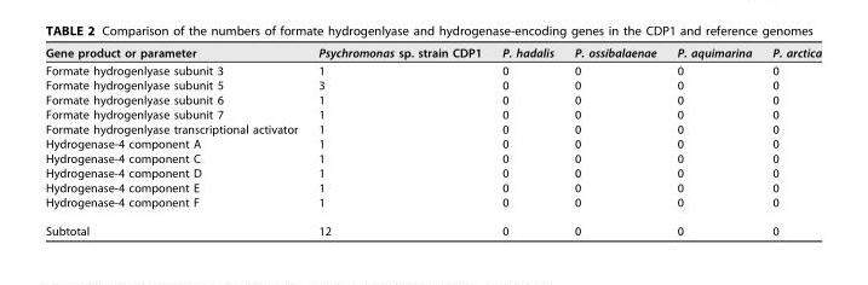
<table><thead><tr><td>Gene product or parameter</td><td>Psychromonas sp. strain CDP1</td><td>P. hadalis</td><td>P. ossibalaenae</td><td>P. aquimarina</td><td>P. arctica</td></tr></thead><tbody><tr><td>Formate hydrogenlyase subunit 3</td><td>1</td><td>0</td><td>0</td><td>0</td><td>0</td></tr><tr><td>Formate hydrogenlyase subunit 5</td><td>3</td><td>0</td><td>0</td><td>0</td><td>0</td></tr><tr><td>Formate hydrogenlyase subunit 6</td><td>1</td><td>0</td><td>0</td><td>0</td><td>0</td></tr><tr><td>Formate hydrogenlyase subunit 7</td><td>1</td><td>0</td><td>0</td><td>0</td><td>0</td></tr><tr><td>Formate hydrogenlyase transcriptional activator</td><td>1</td><td>0</td><td>0</td><td>0</td><td>0</td></tr><tr><td>Hydrogenase-4 component A</td><td>1</td><td>0</td><td>0</td><td>0</td><td>0</td></tr><tr><td>Hydrogenase-4 component C</td><td>1</td><td>0</td><td>0</td><td>0</td><td>0</td></tr><tr><td>Hydrogenase-4 component D</td><td>1</td><td>0</td><td>0</td><td>0</td><td>0</td></tr><tr><td>Hydrogenase-4 component E</td><td>1</td><td>0</td><td>0</td><td>0</td><td>0</td></tr><tr><td>Hydrogenase-4 component F</td><td>1</td><td>0</td><td>0</td><td>0</td><td>0</td></tr><tr><td>Subtotal</td><td>12</td><td>0</td><td>0</td><td>0</td><td>0</td></tr></tbody></table>